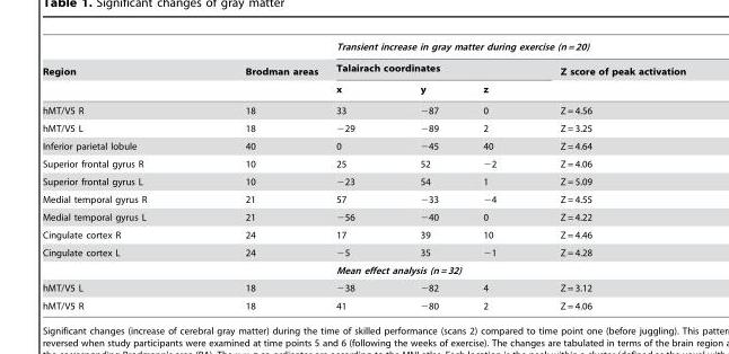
<table><thead><tr><td rowspan="3">Region</td><td rowspan="3">Brodman areas</td><td colspan="4">Transient increase in gray matter during exercise (n = 20)</td></tr><tr><td colspan="3">Talairach coordinates</td><td rowspan="2">Z score of peak activation</td></tr><tr><td>x</td><td>y</td><td>z</td></tr></thead><tbody><tr><td>hMT/V5 R</td><td>18</td><td>33</td><td>−87</td><td>0</td><td>Z = 4.56</td></tr><tr><td>hMT/V5 L</td><td>18</td><td>−29</td><td>−89</td><td>2</td><td>Z = 3.25</td></tr><tr><td>Inferior parietal lobule</td><td>40</td><td>0</td><td>−45</td><td>40</td><td>Z = 4.64</td></tr><tr><td>Superior frontal gyrus R</td><td>10</td><td>25</td><td>52</td><td>−2</td><td>Z = 4.06</td></tr><tr><td>Superior frontal gyrus L</td><td>10</td><td>−23</td><td>54</td><td>1</td><td>Z = 5.09</td></tr><tr><td>Medial temporal gyrus R</td><td>21</td><td>57</td><td>−33</td><td>−4</td><td>Z = 4.55</td></tr><tr><td>Medial temporal gyrus L</td><td>21</td><td>−56</td><td>−40</td><td>0</td><td>Z = 4.22</td></tr><tr><td>Cingulate cortex R</td><td>24</td><td>17</td><td>39</td><td>10</td><td>Z = 4.46</td></tr><tr><td rowspan="2">Cingulate cortex L</td><td>24</td><td>−5</td><td>35</td><td>−1</td><td>Z = 4.28</td></tr><tr><td></td><td colspan="4">Mean effect analysis (n = 32)</td></tr><tr><td>hMT/V5 L</td><td>18</td><td>−38</td><td>−82</td><td>4</td><td>Z = 3.12</td></tr><tr><td>hMT/V5 R</td><td>18</td><td>41</td><td>−80</td><td>2</td><td>Z = 4.06</td></tr></tbody></table>